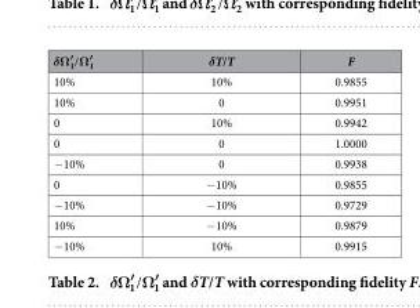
<table><thead><tr><td>δΩ′ Ω′ / 1 1</td><td>δT/T</td><td>F</td></tr></thead><tbody><tr><td>10%</td><td>10%</td><td>0.9855</td></tr><tr><td>10%</td><td>0</td><td>0.9951</td></tr><tr><td>0</td><td>10%</td><td>0.9942</td></tr><tr><td>0</td><td>0</td><td>1.0000</td></tr><tr><td>− 10%</td><td>0</td><td>0.9938</td></tr><tr><td>0</td><td>− 10%</td><td>0.9855</td></tr><tr><td>− 10%</td><td>− 10%</td><td>0.9729</td></tr><tr><td>10%</td><td>− 10%</td><td>0.9879</td></tr><tr><td>− 10%</td><td>10%</td><td>0.9915</td></tr></tbody></table>